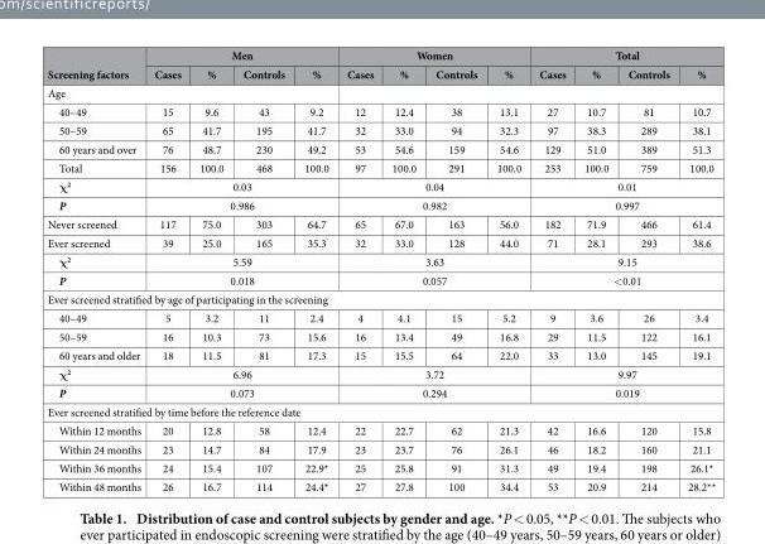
<table><thead><tr><td rowspan="2">Screening factors</td><td colspan="4">Men</td><td colspan="4">Women</td><td colspan="4">Total</td></tr><tr><td>Cases</td><td>%</td><td>Controls</td><td>%</td><td>Cases</td><td>%</td><td>Controls</td><td>%</td><td>Cases</td><td>%</td><td>Controls</td><td>%</td></tr></thead><tbody><tr><td colspan="13">Age</td></tr><tr><td>40–49</td><td>15</td><td>9.6</td><td>43</td><td>9.2</td><td>12</td><td>12.4</td><td>38</td><td>13.1</td><td>27</td><td>10.7</td><td>81</td><td>10.7</td></tr><tr><td>50–59</td><td>65</td><td>41.7</td><td>195</td><td>41.7</td><td>32</td><td>33.0</td><td>94</td><td>32.3</td><td>97</td><td>38.3</td><td>289</td><td>38.1</td></tr><tr><td>60 years and over</td><td>76</td><td>48.7</td><td>230</td><td>49.2</td><td>53</td><td>54.6</td><td>159</td><td>54.6</td><td>129</td><td>51.0</td><td>389</td><td>51.3</td></tr><tr><td>Total</td><td>156</td><td>100.0</td><td>468</td><td>100.0</td><td>97</td><td>100.0</td><td>291</td><td>100.0</td><td>253</td><td>100.0</td><td>759</td><td>100.0</td></tr><tr><td>χ<sup>2</sup></td><td colspan="4">0.03</td><td colspan="4">0.04</td><td colspan="4">0.01</td></tr><tr><td>P</td><td colspan="4">0.986</td><td colspan="4">0.982</td><td colspan="4">0.997</td></tr><tr><td>Never screened</td><td>117</td><td>75.0</td><td>303</td><td>64.7</td><td>65</td><td>67.0</td><td>163</td><td>56.0</td><td>182</td><td>71.9</td><td>466</td><td>61.4</td></tr><tr><td>Ever screened</td><td>39</td><td>25.0</td><td>165</td><td>35.3</td><td>32</td><td>33.0</td><td>128</td><td>44.0</td><td>71</td><td>28.1</td><td>293</td><td>38.6</td></tr><tr><td>χ<sup>2</sup></td><td colspan="4">5.59</td><td colspan="4">3.63</td><td colspan="4">9.15</td></tr><tr><td>P</td><td colspan="4">0.018</td><td colspan="4">0.057</td><td colspan="4">&lt; 0.01</td></tr><tr><td colspan="13">Ever screened stratified by age of participating in the screening</td></tr><tr><td>40–49</td><td>5</td><td>3.2</td><td>11</td><td>2.4</td><td>4</td><td>4.1</td><td>15</td><td>5.2</td><td>9</td><td>3.6</td><td>26</td><td>3.4</td></tr><tr><td>50–59</td><td>16</td><td>10.3</td><td>73</td><td>15.6</td><td>16</td><td>13.4</td><td>49</td><td>16.8</td><td>29</td><td>11.5</td><td>122</td><td>16.1</td></tr><tr><td>60 years and older</td><td>18</td><td>11.5</td><td>81</td><td>17.3</td><td>15</td><td>15.5</td><td>64</td><td>22.0</td><td>33</td><td>13.0</td><td>145</td><td>19.1</td></tr><tr><td>χ<sup>2</sup></td><td colspan="4">6.96</td><td colspan="4">3.72</td><td colspan="4">9.97</td></tr><tr><td>P</td><td colspan="4">0.073</td><td colspan="4">0.294</td><td colspan="4">0.019</td></tr><tr><td colspan="13">Ever screened stratified by time before the reference date</td></tr><tr><td>Within 12 months</td><td>20</td><td>12.8</td><td>58</td><td>12.4</td><td>22</td><td>22.7</td><td>62</td><td>21.3</td><td>42</td><td>16.6</td><td>120</td><td>15.8</td></tr><tr><td>Within 24 months</td><td>23</td><td>14.7</td><td>84</td><td>17.9</td><td>23</td><td>23.7</td><td>76</td><td>26.1</td><td>46</td><td>18.2</td><td>160</td><td>21.1</td></tr><tr><td>Within 36 months</td><td>24</td><td>15.4</td><td>107</td><td>22.9*</td><td>25</td><td>25.8</td><td>91</td><td>31.3</td><td>49</td><td>19.4</td><td>198</td><td>26.1*</td></tr><tr><td>Within 48 months</td><td>26</td><td>16.7</td><td>114</td><td>24.4*</td><td>27</td><td>27.8</td><td>100</td><td>34.4</td><td>53</td><td>20.9</td><td>214</td><td>28.2**</td></tr></tbody></table>